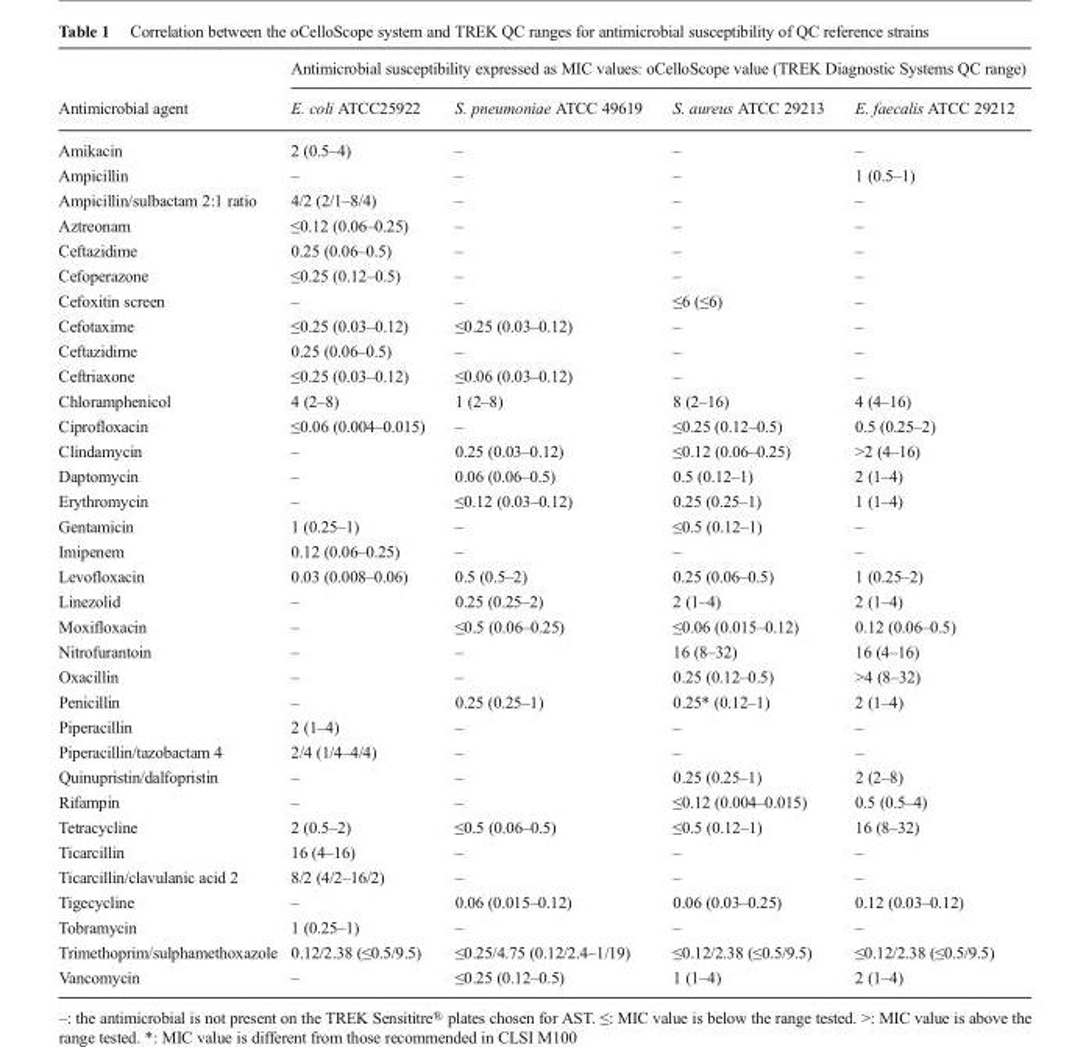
<table><thead><tr><td rowspan="2">Antimicrobial agent</td><td colspan="4">Antimicrobial susceptibility expressed as MIC values: oCelloScope value (TREK Diagnostic Systems QC range)</td></tr><tr><td>E. coli ATCC25922</td><td>S. pneumoniae ATCC 49619</td><td>S. aureus ATCC 29213</td><td>E. faecalis ATCC 29212</td></tr></thead><tbody><tr><td>Amikacin</td><td>2 (0.5–4)</td><td>–</td><td>–</td><td>–</td></tr><tr><td>Ampicillin</td><td>–</td><td>–</td><td>–</td><td>1 (0.5–1)</td></tr><tr><td>Ampicillin/sulbactam 2:1 ratio</td><td>4/2 (2/1–8/4)</td><td>–</td><td>–</td><td>–</td></tr><tr><td>Aztreonam</td><td>≤0.12 (0.06–0.25)</td><td>–</td><td>–</td><td>–</td></tr><tr><td>Ceftazidime</td><td>0.25 (0.06–0.5)</td><td>–</td><td>–</td><td>–</td></tr><tr><td>Cefoperazone</td><td>≤0.25 (0.12–0.5)</td><td>–</td><td>–</td><td>–</td></tr><tr><td>Cefoxitin screen</td><td>–</td><td>–</td><td>≤6 (≤6)</td><td>–</td></tr><tr><td>Cefotaxime</td><td>≤0.25 (0.03–0.12)</td><td>≤0.25 (0.03–0.12)</td><td>–</td><td>–</td></tr><tr><td>Ceftazidime</td><td>0.25 (0.06–0.5)</td><td>–</td><td>–</td><td>–</td></tr><tr><td>Ceftriaxone</td><td>≤0.25 (0.03–0.12)</td><td>≤0.06 (0.03–0.12)</td><td>–</td><td>–</td></tr><tr><td>Chloramphenicol</td><td>4 (2–8)</td><td>1 (2–8)</td><td>8 (2–16)</td><td>4 (4–16)</td></tr><tr><td>Ciprofloxacin</td><td>≤0.06 (0.004–0.015)</td><td>–</td><td>≤0.25 (0.12–0.5)</td><td>0.5 (0.25–2)</td></tr><tr><td>Clindamycin</td><td>–</td><td>0.25 (0.03–0.12)</td><td>≤0.12 (0.06–0.25)</td><td>&gt;2 (4–16)</td></tr><tr><td>Daptomycin</td><td>–</td><td>0.06 (0.06–0.5)</td><td>0.5 (0.12–1)</td><td>2 (1–4)</td></tr><tr><td>Erythromycin</td><td>–</td><td>≤0.12 (0.03–0.12)</td><td>0.25 (0.25–1)</td><td>1 (1–4)</td></tr><tr><td>Gentamicin</td><td>1 (0.25–1)</td><td>–</td><td>≤0.5 (0.12–1)</td><td>–</td></tr><tr><td>Imipenem</td><td>0.12 (0.06–0.25)</td><td>–</td><td>–</td><td>–</td></tr><tr><td>Levofloxacin</td><td>0.03 (0.008–0.06)</td><td>0.5 (0.5–2)</td><td>0.25 (0.06–0.5)</td><td>1 (0.25–2)</td></tr><tr><td>Linezolid</td><td>–</td><td>0.25 (0.25–2)</td><td>2 (1–4)</td><td>2 (1–4)</td></tr><tr><td>Moxifloxacin</td><td>–</td><td>≤0.5 (0.06–0.25)</td><td>≤0.06 (0.015–0.12)</td><td>0.12 (0.06–0.5)</td></tr><tr><td>Nitrofurantoin</td><td>–</td><td>–</td><td>16 (8–32)</td><td>16 (4–16)</td></tr><tr><td>Oxacillin</td><td>–</td><td>–</td><td>0.25 (0.12–0.5)</td><td>&gt;4 (8–32)</td></tr><tr><td>Penicillin</td><td>–</td><td>0.25 (0.25–1)</td><td>0.25* (0.12–1)</td><td>2 (1–4)</td></tr><tr><td>Piperacillin</td><td>2 (1–4)</td><td>–</td><td>–</td><td>–</td></tr><tr><td>Piperacillin/tazobactam 4</td><td>2/4 (1/4–4/4)</td><td>–</td><td>–</td><td>–</td></tr><tr><td>Quinupristin/dalfopristin</td><td>–</td><td>–</td><td>0.25 (0.25–1)</td><td>2 (2–8)</td></tr><tr><td>Rifampin</td><td>–</td><td>–</td><td>≤0.12 (0.004–0.015)</td><td>0.5 (0.5–4)</td></tr><tr><td>Tetracycline</td><td>2 (0.5–2)</td><td>≤0.5 (0.06–0.5)</td><td>≤0.5 (0.12–1)</td><td>16 (8–32)</td></tr><tr><td>Ticarcillin</td><td>16 (4–16)</td><td>–</td><td>–</td><td>–</td></tr><tr><td>Ticarcillin/clavulanic acid 2</td><td>8/2 (4/2–16/2)</td><td>–</td><td>–</td><td>–</td></tr><tr><td>Tigecycline</td><td>–</td><td>0.06 (0.015–0.12)</td><td>0.06 (0.03–0.25)</td><td>0.12 (0.03–0.12)</td></tr><tr><td>Tobramycin</td><td>1 (0.25–1)</td><td>–</td><td>–</td><td>–</td></tr><tr><td>Trimethoprim/sulphamethoxazole</td><td>0.12/2.38 (≤0.5/9.5)</td><td>≤0.25/4.75 (0.12/2.4–1/19)</td><td>≤0.12/2.38 (≤0.5/9.5)</td><td>≤0.12/2.38 (≤0.5/9.5)</td></tr><tr><td>Vancomycin</td><td>–</td><td>≤0.25 (0.12–0.5)</td><td>1 (1–4)</td><td>2 (1–4)</td></tr></tbody></table>